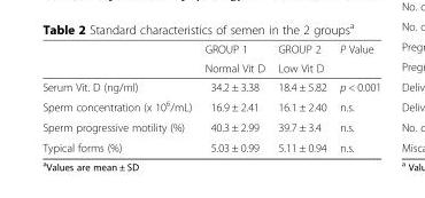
<table><thead><tr><td rowspan="2"></td><td rowspan="2">GROUP 1 Normal Vit D</td><td rowspan="2">GROUP 2 Low Vit D</td><td rowspan="2">P Value</td></tr><tr></tr></thead><tbody><tr><td>Serum Vit. D (ng/ml)</td><td>34.2 ± 3.38</td><td>18.4 ± 5.82</td><td>p &lt; 0.001</td></tr><tr><td>Sperm concentration (x 10<sup>6</sup>/mL)</td><td>16.9 ± 2.41</td><td>16.1 ± 2.40</td><td>n.s.</td></tr><tr><td>Sperm progressive motility (%)</td><td>40.3 ± 2.99</td><td>39.7 ± 3.4</td><td>n.s.</td></tr><tr><td>Typical forms (%)</td><td>5.03 ± 0.99</td><td>5.11 ± 0.94</td><td>n.s.</td></tr></tbody></table>